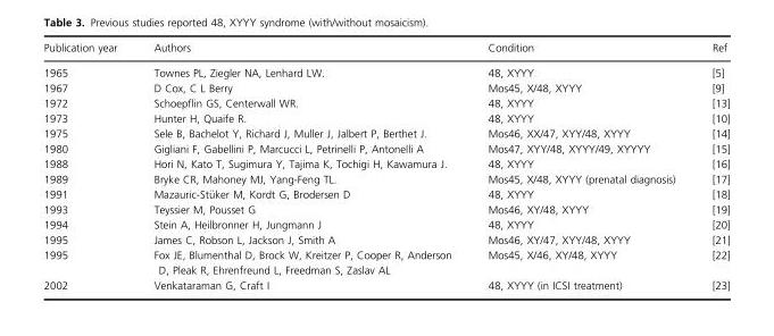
<table><thead><tr><td>Publication year</td><td>Authors</td><td>Condition</td><td>Ref</td></tr></thead><tbody><tr><td>1965</td><td>Townes PL, Ziegler NA, Lenhard LW.</td><td>48, XYYY</td><td>[5]</td></tr><tr><td>1967</td><td>D Cox, C L Berry</td><td>Mos45, X/48, XYYY</td><td>[9]</td></tr><tr><td>1972</td><td>Schoepflin GS, Centerwall WR.</td><td>48, XYYY</td><td>[13]</td></tr><tr><td>1973</td><td>Hunter H, Quaife R.</td><td>48, XYYY</td><td>[10]</td></tr><tr><td>1975</td><td>Sele B, Bachelot Y, Richard J, Muller J, Jalbert P, Berthet J.</td><td>Mos46, XX/47, XYY/48, XYYY</td><td>[14]</td></tr><tr><td>1980</td><td>Gigliani F, Gabellini P, Marcucci L, Petrinelli P, Antonelli A</td><td>Mos47, XYY/48, XYYY/49, XYYYY</td><td>[15]</td></tr><tr><td>1988</td><td>Hori N, Kato T, Sugimura Y, Tajima K, Tochigi H, Kawamura J.</td><td>48, XYYY</td><td>[16]</td></tr><tr><td>1989</td><td>Bryke CR, Mahoney MJ, Yang-Feng TL.</td><td>Mos45, X/48, XYYY (prenatal diagnosis)</td><td>[17]</td></tr><tr><td>1991</td><td>Mazauric-St€uker M, Kordt G, Brodersen D</td><td>48, XYYY</td><td>[18]</td></tr><tr><td>1993</td><td>Teyssier M, Pousset G</td><td>Mos46, XY/48, XYYY</td><td>[19]</td></tr><tr><td>1994</td><td>Stein A, Heilbronner H, Jungmann J</td><td>48, XYYY</td><td>[20]</td></tr><tr><td>1995</td><td>James C, Robson L, Jackson J, Smith A</td><td>Mos46, XY/47, XYY/48, XYYY</td><td>[21]</td></tr><tr><td>1995</td><td>Fox JE, Blumenthal D, Brock W, Kreitzer P, Cooper R, Anderson D, Pleak R, Ehrenfreund L, Freedman S, Zaslav AL</td><td>Mos45, X/46, XY/48, XYYY</td><td>[22]</td></tr><tr><td>2002</td><td>Venkataraman G, Craft I</td><td>48, XYYY (in ICSI treatment)</td><td>[23]</td></tr></tbody></table>